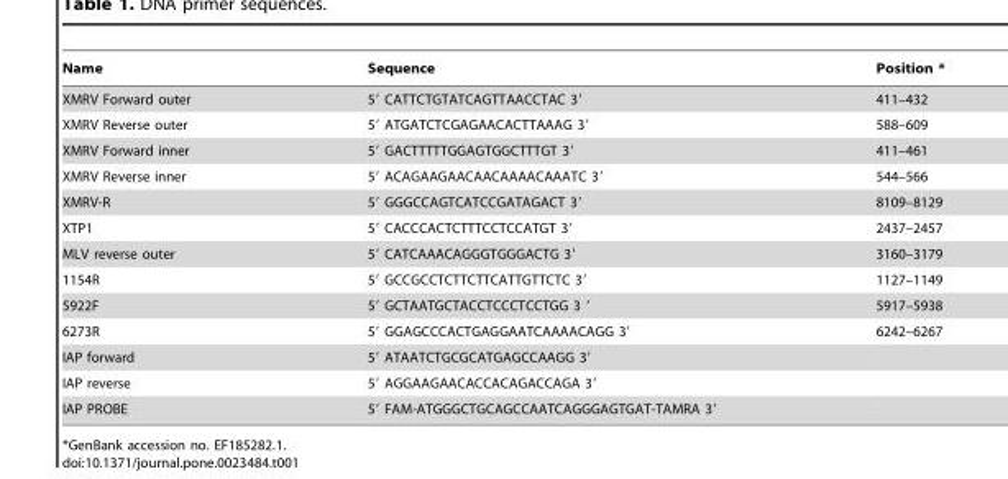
<table><thead><tr><td>Name</td><td>Sequence</td><td>Position *</td></tr></thead><tbody><tr><td>XMRV Forward outer</td><td>5′ CATTCTGTATCAGTTAACCTAC 3′</td><td>411–432</td></tr><tr><td>XMRV Reverse outer</td><td>5′ ATGATCTCGAGAACACTTAAAG 3′</td><td>588–609</td></tr><tr><td>XMRV Forward inner</td><td>5′ GACTTTTTGGAGTGGCTTTGT 3′</td><td>411–461</td></tr><tr><td>XMRV Reverse inner</td><td>5′ ACAGAAGAACAACAAAACAAATC 3′</td><td>544–566</td></tr><tr><td>XMRV-R</td><td>5′ GGGCCAGTCATCCGATAGACT 3′</td><td>8109–8129</td></tr><tr><td>XTP1</td><td>5′ CACCCACTCTTTCCTCCATGT 3′</td><td>2437–2457</td></tr><tr><td>MLV reverse outer</td><td>5′ CATCAAACAGGGTGGGACTG 3′</td><td>3160–3179</td></tr><tr><td>1154R</td><td>5′ GCCGCCTCTTCTTCATTGTTCTC 3′</td><td>1127–1149</td></tr><tr><td>5922F</td><td>5′ GCTAATGCTACCTCCCTCCTGG 3 ′</td><td>5917–5938</td></tr><tr><td>6273R</td><td>5′ GGAGCCCACTGAGGAATCAAAACAGG 3′</td><td>6242–6267</td></tr><tr><td>IAP forward</td><td>5′ ATAATCTGCGCATGAGCCAAGG 3′</td><td></td></tr><tr><td>IAP reverse</td><td>5′ AGGAAGAACACCACAGACCAGA 3′</td><td></td></tr><tr><td>IAP PROBE</td><td>5′ FAM-ATGGGCTGCAGCCAATCAGGGAGTGAT-TAMRA 3′</td><td></td></tr></tbody></table>